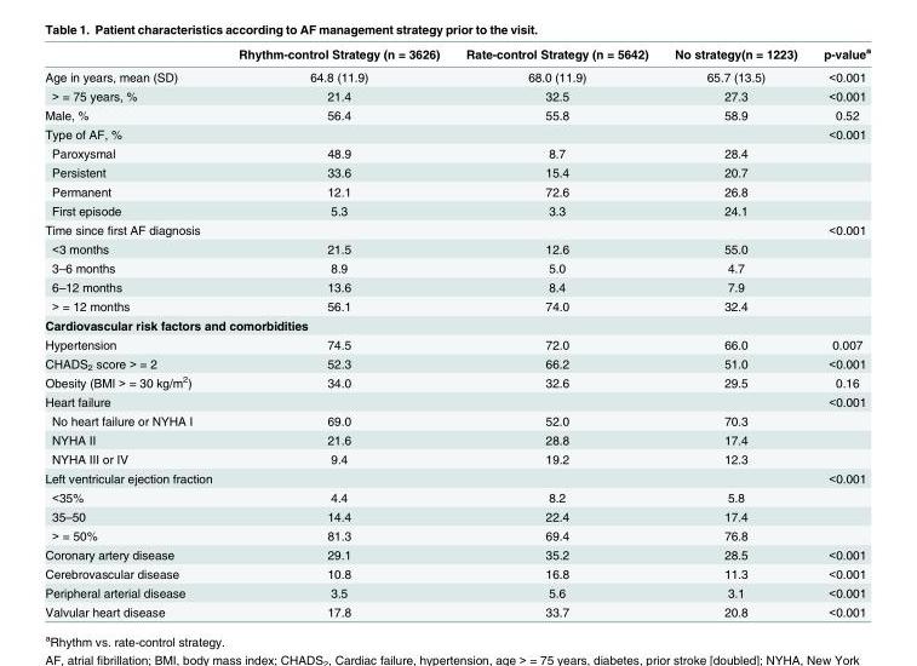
<table><thead><tr><td></td><td>Rhythm-control Strategy (n = 3626)</td><td>Rate-control Strategy (n = 5642)</td><td>No strategy(n = 1223)</td><td>p-value<sup>a</sup></td></tr></thead><tbody><tr><td>Age in years, mean (SD)</td><td>64.8 (11.9)</td><td>68.0 (11.9)</td><td>65.7 (13.5)</td><td>&lt;0.001</td></tr><tr><td>&gt; = 75 years, %</td><td>21.4</td><td>32.5</td><td>27.3</td><td>&lt;0.001</td></tr><tr><td>Male, %</td><td>56.4</td><td>55.8</td><td>58.9</td><td>0.52</td></tr><tr><td>Type of AF, %</td><td></td><td></td><td></td><td>&lt;0.001</td></tr><tr><td>Paroxysmal</td><td>48.9</td><td>8.7</td><td>28.4</td><td></td></tr><tr><td>Persistent</td><td>33.6</td><td>15.4</td><td>20.7</td><td></td></tr><tr><td>Permanent</td><td>12.1</td><td>72.6</td><td>26.8</td><td></td></tr><tr><td>First episode</td><td>5.3</td><td>3.3</td><td>24.1</td><td></td></tr><tr><td>Time since first AF diagnosis</td><td></td><td></td><td></td><td>&lt;0.001</td></tr><tr><td>&lt;3 months</td><td>21.5</td><td>12.6</td><td>55.0</td><td></td></tr><tr><td>3–6 months</td><td>8.9</td><td>5.0</td><td>4.7</td><td></td></tr><tr><td>6–12 months</td><td>13.6</td><td>8.4</td><td>7.9</td><td></td></tr><tr><td>&gt; = 12 months</td><td>56.1</td><td>74.0</td><td>32.4</td><td></td></tr><tr><td colspan="5">Cardiovascular risk factors and comorbidities</td></tr><tr><td>Hypertension</td><td>74.5</td><td>72.0</td><td>66.0</td><td>0.007</td></tr><tr><td>CHADS<sub>2</sub> score &gt; = 2</td><td>52.3</td><td>66.2</td><td>51.0</td><td>&lt;0.001</td></tr><tr><td>Obesity (BMI &gt; = 30 kg/m<sup>2</sup>)</td><td>34.0</td><td>32.6</td><td>29.5</td><td>0.16</td></tr><tr><td>Heart failure</td><td></td><td></td><td></td><td>&lt;0.001</td></tr><tr><td>No heart failure or NYHA I</td><td>69.0</td><td>52.0</td><td>70.3</td><td></td></tr><tr><td>NYHA II</td><td>21.6</td><td>28.8</td><td>17.4</td><td></td></tr><tr><td>NYHA III or IV</td><td>9.4</td><td>19.2</td><td>12.3</td><td></td></tr><tr><td>Left ventricular ejection fraction</td><td></td><td></td><td></td><td>&lt;0.001</td></tr><tr><td>&lt;35%</td><td>4.4</td><td>8.2</td><td>5.8</td><td></td></tr><tr><td>35–50</td><td>14.4</td><td>22.4</td><td>17.4</td><td></td></tr><tr><td>&gt; = 50%</td><td>81.3</td><td>69.4</td><td>76.8</td><td></td></tr><tr><td>Coronary artery disease</td><td>29.1</td><td>35.2</td><td>28.5</td><td>&lt;0.001</td></tr><tr><td>Cerebrovascular disease</td><td>10.8</td><td>16.8</td><td>11.3</td><td>&lt;0.001</td></tr><tr><td>Peripheral arterial disease</td><td>3.5</td><td>5.6</td><td>3.1</td><td>&lt;0.001</td></tr><tr><td>Valvular heart disease</td><td>17.8</td><td>33.7</td><td>20.8</td><td>&lt;0.001</td></tr></tbody></table>